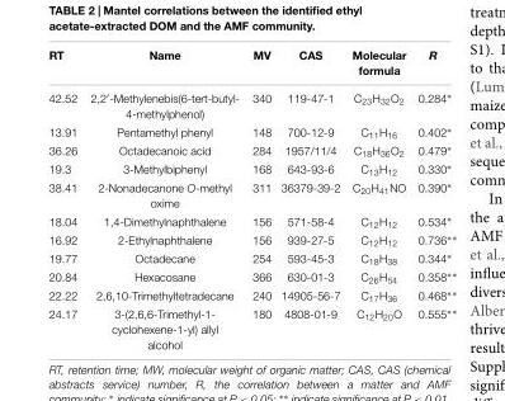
<table><thead><tr><td>RT</td><td>Name</td><td>MV</td><td>CAS</td><td>Molecular formula</td><td>R</td></tr></thead><tbody><tr><td>42.52</td><td>2,2′-Methylenebis(6-tert-butyl- 4-methylphenol)</td><td>340</td><td>119-47-1</td><td>C<sub>23</sub>H<sub>32</sub>O<sub>2</sub></td><td>0.284∗</td></tr><tr><td>13.91</td><td>Pentamethyl phenyl</td><td>148</td><td>700-12-9</td><td>C<sub>11</sub>H<sub>16</sub></td><td>0.402∗</td></tr><tr><td>36.26</td><td>Octadecanoic acid</td><td>284</td><td>1957/11/4</td><td>C<sub>18</sub>H<sub>36</sub>O<sub>2</sub></td><td>0.479∗</td></tr><tr><td>19.3</td><td>3-Methylbiphenyl</td><td>168</td><td>643-93-6</td><td>C<sub>13</sub>H<sub>12</sub></td><td>0.330∗</td></tr><tr><td>38.41</td><td>2-Nonadecanone O-methyl oxime</td><td>311</td><td>36379-39-2</td><td>C<sub>20</sub>H<sub>41</sub>NO</td><td>0.390∗</td></tr><tr><td>18.04</td><td>1,4-Dimethylnaphthalene</td><td>156</td><td>571-58-4</td><td>C<sub>12</sub>H<sub>12</sub></td><td>0.534∗</td></tr><tr><td>16.92</td><td>2-Ethylnaphthalene</td><td>156</td><td>939-27-5</td><td>C<sub>12</sub>H<sub>12</sub></td><td>0.736∗∗</td></tr><tr><td>19.77</td><td>Octadecane</td><td>254</td><td>593-45-3</td><td>C<sub>18</sub>H<sub>38</sub></td><td>0.344∗</td></tr><tr><td>20.84</td><td>Hexacosane</td><td>366</td><td>630-01-3</td><td>C<sub>26</sub>H<sub>54</sub></td><td>0.358∗∗</td></tr><tr><td>22.22</td><td>2,6,10-Trimethyltetradecane</td><td>240</td><td>14905-56-7</td><td>C<sub>17</sub>H<sub>36</sub></td><td>0.468∗∗</td></tr><tr><td>24.17</td><td>3-(2,6,6-Trimethyl-1- cyclohexene-1-yl) allyl alcohol</td><td>180</td><td>4808-01-9</td><td>C<sub>12</sub>H<sub>20</sub>O</td><td>0.555∗∗</td></tr></tbody></table>